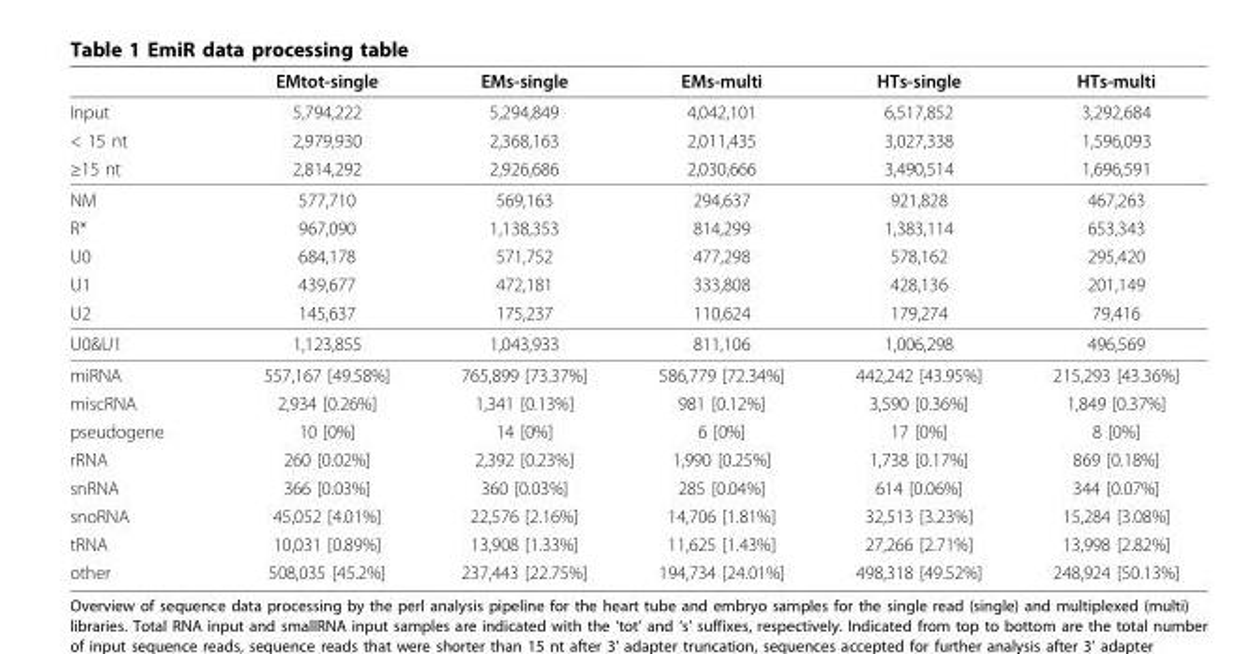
<table><thead><tr><td></td><td>EMtot-single</td><td>EMs-single</td><td>EMs-multi</td><td>HTs-single</td><td>HTs-multi</td></tr></thead><tbody><tr><td>Input</td><td>5,794,222</td><td>5,294,849</td><td>4,042,101</td><td>6,517,852</td><td>3,292,684</td></tr><tr><td>&lt; 15 nt</td><td>2,979,930</td><td>2,368,163</td><td>2,011,435</td><td>3,027,338</td><td>1,596,093</td></tr><tr><td>≥15 nt</td><td>2,814,292</td><td>2,926,686</td><td>2,030,666</td><td>3,490,514</td><td>1,696,591</td></tr><tr><td>NM</td><td>577,710</td><td>569,163</td><td>294,637</td><td>921,828</td><td>467,263</td></tr><tr><td>R*</td><td>967,090</td><td>1,138,353</td><td>814,299</td><td>1,383,114</td><td>653,343</td></tr><tr><td>U0</td><td>684,178</td><td>571,752</td><td>477,298</td><td>578,162</td><td>295,420</td></tr><tr><td>U1</td><td>439,677</td><td>472,181</td><td>333,808</td><td>428,136</td><td>201,149</td></tr><tr><td>U2</td><td>145,637</td><td>175,237</td><td>110,624</td><td>179,274</td><td>79,416</td></tr><tr><td>U0&amp;U1</td><td>1,123,855</td><td>1,043,933</td><td>811,106</td><td>1,006,298</td><td>496,569</td></tr><tr><td>miRNA</td><td>557,167 [49.58%]</td><td>765,899 [73.37%]</td><td>586,779 [72.34%]</td><td>442,242 [43.95%]</td><td>215,293 [43.36%]</td></tr><tr><td>miscRNA</td><td>2,934 [0.26%]</td><td>1,341 [0.13%]</td><td>981 [0.12%]</td><td>3,590 [0.36%]</td><td>1,849 [0.37%]</td></tr><tr><td>pseudogene</td><td>10 [0%]</td><td>14 [0%]</td><td>6 [0%]</td><td>17 [0%]</td><td>8 [0%]</td></tr><tr><td>rRNA</td><td>260 [0.02%]</td><td>2,392 [0.23%]</td><td>1,990 [0.25%]</td><td>1,738 [0.17%]</td><td>869 [0.18%]</td></tr><tr><td>snRNA</td><td>366 [0.03%]</td><td>360 [0.03%]</td><td>285 [0.04%]</td><td>614 [0.06%]</td><td>344 [0.07%]</td></tr><tr><td>snoRNA</td><td>45,052 [4.01%]</td><td>22,576 [2.16%]</td><td>14,706 [1.81%]</td><td>32,513 [3.23%]</td><td>15,284 [3.08%]</td></tr><tr><td>tRNA</td><td>10,031 [0.89%]</td><td>13,908 [1.33%]</td><td>11,625 [1.43%]</td><td>27,266 [2.71%]</td><td>13,998 [2.82%]</td></tr><tr><td>other</td><td>508,035 [45.2%]</td><td>237,443 [22.75%]</td><td>194,734 [24.01%]</td><td>498,318 [49.52%]</td><td>248,924 [50.13%]</td></tr></tbody></table>